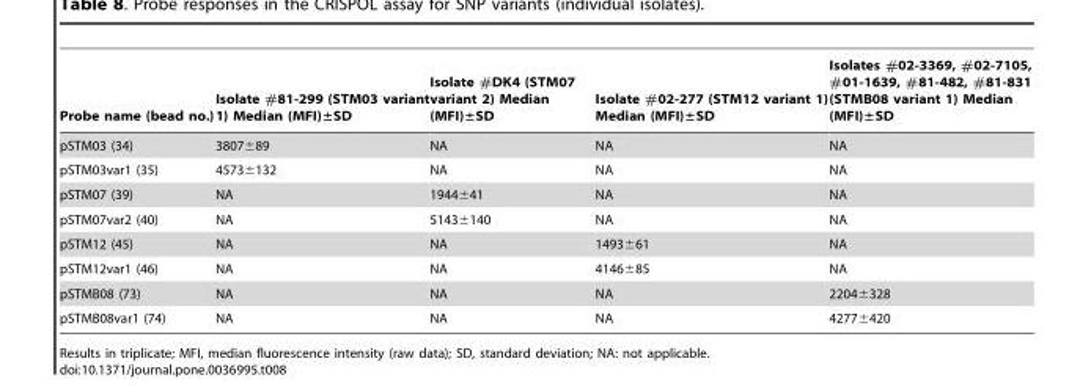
<table><thead><tr><td>Probe name (bead no.)</td><td>Isolate #81-299 (STM03 variant 1) Median (MFI)±SD</td><td>Isolate #DK4 (STM07 variant 2) Median (MFI)±SD</td><td>Isolate #02-277 (STM12 variant 1) Median (MFI)±SD</td><td>Isolates #02-3369, #02-7105, #01-1639, #81-482, #81-831 (STMB08 variant 1) Median (MFI)±SD</td></tr></thead><tbody><tr><td>pSTM03 (34)</td><td>3807±89</td><td>NA</td><td>NA</td><td>NA</td></tr><tr><td>pSTM03var1 (35)</td><td>4573±132</td><td>NA</td><td>NA</td><td>NA</td></tr><tr><td>pSTM07 (39)</td><td>NA</td><td>1944±41</td><td>NA</td><td>NA</td></tr><tr><td>pSTM07var2 (40)</td><td>NA</td><td>5143±140</td><td>NA</td><td>NA</td></tr><tr><td>pSTM12 (45)</td><td>NA</td><td>NA</td><td>1493±61</td><td>NA</td></tr><tr><td>pSTM12var1 (46)</td><td>NA</td><td>NA</td><td>4146±85</td><td>NA</td></tr><tr><td>pSTMB08 (73)</td><td>NA</td><td>NA</td><td>NA</td><td>2204±328</td></tr><tr><td>pSTMB08var1 (74)</td><td>NA</td><td>NA</td><td>NA</td><td>4277±420</td></tr></tbody></table>